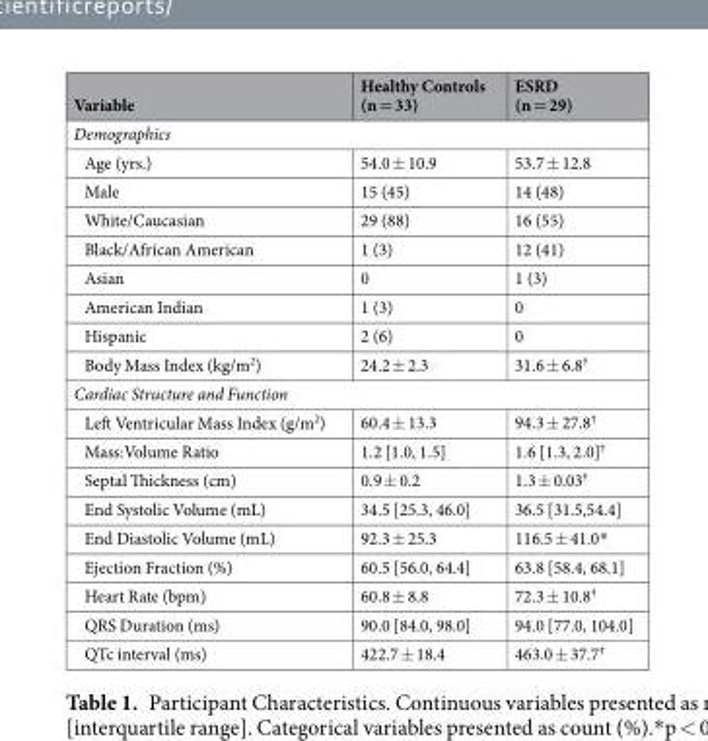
<table><thead><tr><td>Variable</td><td>Healthy Controls (n = 33)</td><td>ESRD (n = 29)</td></tr></thead><tbody><tr><td colspan="3">Demographics</td></tr><tr><td>Age (yrs.)</td><td>54.0 ± 10.9</td><td>53.7 ± 12.8</td></tr><tr><td>Male</td><td>15 (45)</td><td>14 (48)</td></tr><tr><td>White/Caucasian</td><td>29 (88)</td><td>16 (55)</td></tr><tr><td>Black/African American</td><td>1 (3)</td><td>12 (41)</td></tr><tr><td>Asian</td><td>0</td><td>1 (3)</td></tr><tr><td>American Indian</td><td>1 (3)</td><td>0</td></tr><tr><td>Hispanic</td><td>2 (6)</td><td>0</td></tr><tr><td>Body Mass Index (kg/m<sup>2</sup>)</td><td>24.2 ± 2.3</td><td>31.6 ± 6.8<sup>†</sup></td></tr><tr><td colspan="3">Cardiac Structure and Function</td></tr><tr><td>Left Ventricular Mass Index (g/m<sup>2</sup>)</td><td>60.4 ± 13.3</td><td>94.3 ± 27.8<sup>†</sup></td></tr><tr><td>Mass:Volume Ratio</td><td>1.2 [1.0, 1.5]</td><td>1.6 [1.3, 2.0]<sup>†</sup></td></tr><tr><td>Septal Thickness (cm)</td><td>0.9 ± 0.2</td><td>1.3 ± 0.03<sup>†</sup></td></tr><tr><td>End Systolic Volume (mL)</td><td>34.5 [25.3, 46.0]</td><td>36.5 [31.5,54.4]</td></tr><tr><td>End Diastolic Volume (mL)</td><td>92.3 ± 25.3</td><td>116.5 ± 41.0*</td></tr><tr><td>Ejection Fraction (%)</td><td>60.5 [56.0, 64.4]</td><td>63.8 [58.4, 68.1]</td></tr><tr><td>Heart Rate (bpm)</td><td>60.8 ± 8.8</td><td>72.3 ± 10.8<sup>†</sup></td></tr><tr><td>QRS Duration (ms)</td><td>90.0 [84.0, 98.0]</td><td>94.0 [77.0, 104.0]</td></tr><tr><td>QTc interval (ms)</td><td>422.7 ± 18.4</td><td>463.0 ± 37.7<sup>†</sup></td></tr></tbody></table>